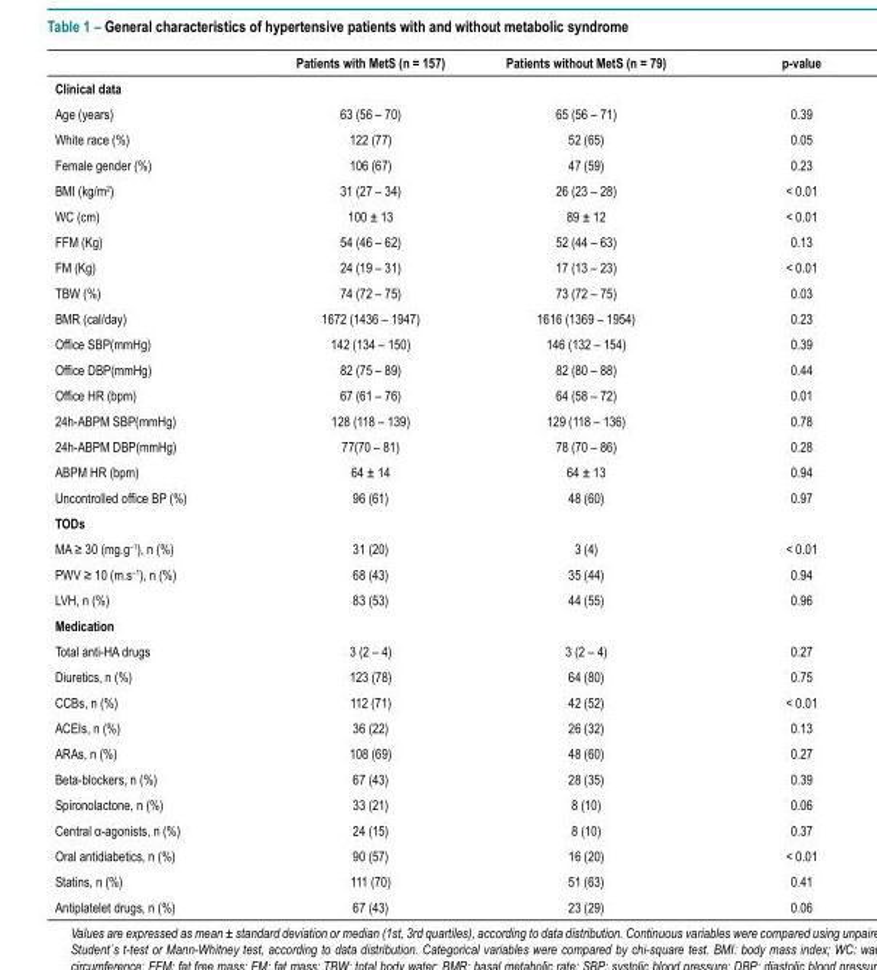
<table><thead><tr><td></td><td>Patients with MetS (n = 157)</td><td>Patients without MetS (n = 79)</td><td>p-value</td></tr></thead><tbody><tr><td colspan="4">Clinical data</td></tr><tr><td>Age (years)</td><td>63 (56 – 70)</td><td>65 (56 – 71)</td><td>0.39</td></tr><tr><td>White race (%)</td><td>122 (77)</td><td>52 (65)</td><td>0.05</td></tr><tr><td>Female gender (%)</td><td>106 (67)</td><td>47 (59)</td><td>0.23</td></tr><tr><td>BMI (kg/m<sup>2</sup>)</td><td>31 (27 – 34)</td><td>26 (23 – 28)</td><td>&lt; 0.01</td></tr><tr><td>WC (cm)</td><td>100 ± 13</td><td>89 ± 12</td><td>&lt; 0.01</td></tr><tr><td>FFM (Kg)</td><td>54 (46 – 62)</td><td>52 (44 – 63)</td><td>0.13</td></tr><tr><td>FM (Kg)</td><td>24 (19 – 31)</td><td>17 (13 – 23)</td><td>&lt; 0.01</td></tr><tr><td>TBW (%)</td><td>74 (72 – 75)</td><td>73 (72 – 75)</td><td>0.03</td></tr><tr><td>BMR (cal/day)</td><td>1672 (1436 – 1947)</td><td>1616 (1369 – 1954)</td><td>0.23</td></tr><tr><td>Office SBP(mmHg)</td><td>142 (134 – 150)</td><td>146 (132 – 154)</td><td>0.39</td></tr><tr><td>Office DBP(mmHg)</td><td>82 (75 – 89)</td><td>82 (80 – 88)</td><td>0.44</td></tr><tr><td>Office HR (bpm)</td><td>67 (61 – 76)</td><td>64 (58 – 72)</td><td>0.01</td></tr><tr><td>24h-ABPM SBP(mmHg)</td><td>128 (118 – 139)</td><td>129 (118 – 136)</td><td>0.78</td></tr><tr><td>24h-ABPM DBP(mmHg)</td><td>77(70 – 81)</td><td>78 (70 – 86)</td><td>0.28</td></tr><tr><td>ABPM HR (bpm)</td><td>64 ± 14</td><td>64 ± 13</td><td>0.94</td></tr><tr><td>Uncontrolled office BP (%)</td><td>96 (61)</td><td>48 (60)</td><td>0.97</td></tr><tr><td colspan="4">TODs</td></tr><tr><td>MA ≥ 30 (mg.g<sup>–1</sup>), n (%)</td><td>31 (20)</td><td>3 (4)</td><td>&lt; 0.01</td></tr><tr><td>PWV ≥ 10 (m.s<sup>–1</sup>), n (%)</td><td>68 (43)</td><td>35 (44)</td><td>0.94</td></tr><tr><td>LVH, n (%)</td><td>83 (53)</td><td>44 (55)</td><td>0.96</td></tr><tr><td colspan="4">Medication</td></tr><tr><td>Total anti-HA drugs</td><td>3 (2 – 4)</td><td>3 (2 – 4)</td><td>0.27</td></tr><tr><td>Diuretics, n (%)</td><td>123 (78)</td><td>64 (80)</td><td>0.75</td></tr><tr><td>CCBs, n (%)</td><td>112 (71)</td><td>42 (52)</td><td>&lt; 0.01</td></tr><tr><td>ACEIs, n (%)</td><td>36 (22)</td><td>26 (32)</td><td>0.13</td></tr><tr><td>ARAs, n (%)</td><td>108 (69)</td><td>48 (60)</td><td>0.27</td></tr><tr><td>Beta-blockers, n (%)</td><td>67 (43)</td><td>28 (35)</td><td>0.39</td></tr><tr><td>Spironolactone, n (%)</td><td>33 (21)</td><td>8 (10)</td><td>0.06</td></tr><tr><td>Central α-agonists, n (%)</td><td>24 (15)</td><td>8 (10)</td><td>0.37</td></tr><tr><td>Oral antidiabetics, n (%)</td><td>90 (57)</td><td>16 (20)</td><td>&lt; 0.01</td></tr><tr><td>Statins, n (%)</td><td>111 (70)</td><td>51 (63)</td><td>0.41</td></tr><tr><td>Antiplatelet drugs, n (%)</td><td>67 (43)</td><td>23 (29)</td><td>0.06</td></tr></tbody></table>